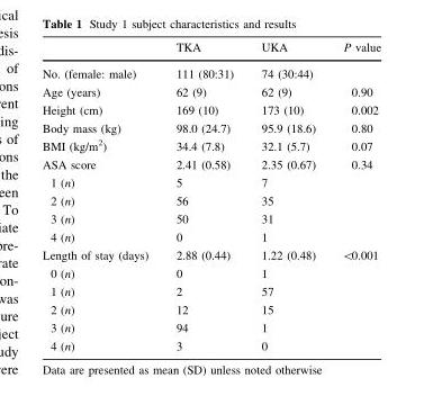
<table><thead><tr><td></td><td>TKA</td><td>UKA</td><td>P value</td></tr></thead><tbody><tr><td>No. (female: male)</td><td>111 (80:31)</td><td>74 (30:44)</td><td></td></tr><tr><td>Age (years)</td><td>62 (9)</td><td>62 (9)</td><td>0.90</td></tr><tr><td>Height (cm)</td><td>169 (10)</td><td>173 (10)</td><td>0.002</td></tr><tr><td>Body mass (kg)</td><td>98.0 (24.7)</td><td>95.9 (18.6)</td><td>0.80</td></tr><tr><td>BMI (kg/m<sup>2</sup>)</td><td>34.4 (7.8)</td><td>32.1 (5.7)</td><td>0.07</td></tr><tr><td>ASA score</td><td>2.41 (0.58)</td><td>2.35 (0.67)</td><td>0.34</td></tr><tr><td>1 (n)</td><td>5</td><td>7</td><td></td></tr><tr><td>2 (n)</td><td>56</td><td>35</td><td></td></tr><tr><td>3 (n)</td><td>50</td><td>31</td><td></td></tr><tr><td>4 (n)</td><td>0</td><td>1</td><td></td></tr><tr><td>Length of stay (days)</td><td>2.88 (0.44)</td><td>1.22 (0.48)</td><td>&lt;0.001</td></tr><tr><td>0 (n)</td><td>0</td><td>1</td><td></td></tr><tr><td>1 (n)</td><td>2</td><td>57</td><td></td></tr><tr><td>2 (n)</td><td>12</td><td>15</td><td></td></tr><tr><td>3 (n)</td><td>94</td><td>1</td><td></td></tr><tr><td>4 (n)</td><td>3</td><td>0</td><td></td></tr></tbody></table>